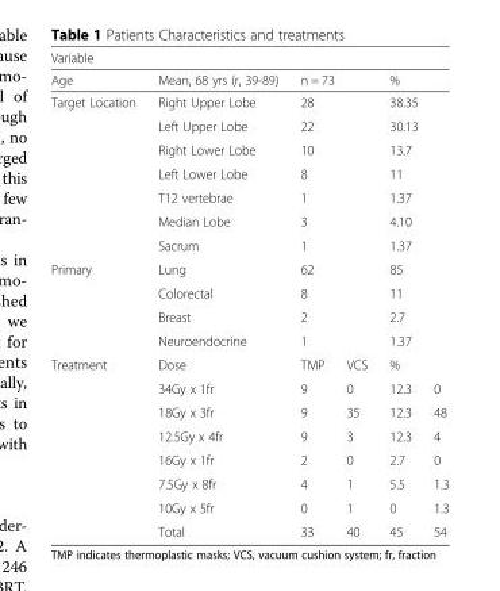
<table><thead><tr><td colspan="6">Variable</td></tr><tr><td>Age</td><td>Mean, 68 yrs (r, 39-89)</td><td colspan="2">n = 73</td><td colspan="2">%</td></tr></thead><tbody><tr><td rowspan="7">Target Location</td><td>Right Upper Lobe</td><td colspan="2">28</td><td colspan="2">38.35</td></tr><tr><td>Left Upper Lobe</td><td colspan="2">22</td><td colspan="2">30.13</td></tr><tr><td>Right Lower Lobe</td><td colspan="2">10</td><td colspan="2">13.7</td></tr><tr><td>Left Lower Lobe</td><td colspan="2">8</td><td colspan="2">11</td></tr><tr><td>T12 vertebrae</td><td colspan="2">1</td><td colspan="2">1.37</td></tr><tr><td>Median Lobe</td><td colspan="2">3</td><td colspan="2">4.10</td></tr><tr><td>Sacrum</td><td colspan="2">1</td><td colspan="2">1.37</td></tr><tr><td rowspan="4">Primary</td><td>Lung</td><td colspan="2">62</td><td colspan="2">85</td></tr><tr><td>Colorectal</td><td colspan="2">8</td><td colspan="2">11</td></tr><tr><td>Breast</td><td colspan="2">2</td><td colspan="2">2.7</td></tr><tr><td>Neuroendocrine</td><td colspan="2">1</td><td colspan="2">1.37</td></tr><tr><td rowspan="8">Treatment</td><td>Dose</td><td>TMP</td><td>VCS</td><td colspan="2">%</td></tr><tr><td>34Gy x 1fr</td><td>9</td><td>0</td><td>12.3</td><td>0</td></tr><tr><td>18Gy x 3fr</td><td>9</td><td>35</td><td>12.3</td><td>48</td></tr><tr><td>12.5Gy x 4fr</td><td>9</td><td>3</td><td>12.3</td><td>4</td></tr><tr><td>16Gy x 1fr</td><td>2</td><td>0</td><td>2.7</td><td>0</td></tr><tr><td>7.5Gy x 8fr</td><td>4</td><td>1</td><td>5.5</td><td>1.3</td></tr><tr><td>10Gy x 5fr</td><td>0</td><td>1</td><td>0</td><td>1.3</td></tr><tr><td>Total</td><td>33</td><td>40</td><td>45</td><td>54</td></tr></tbody></table>